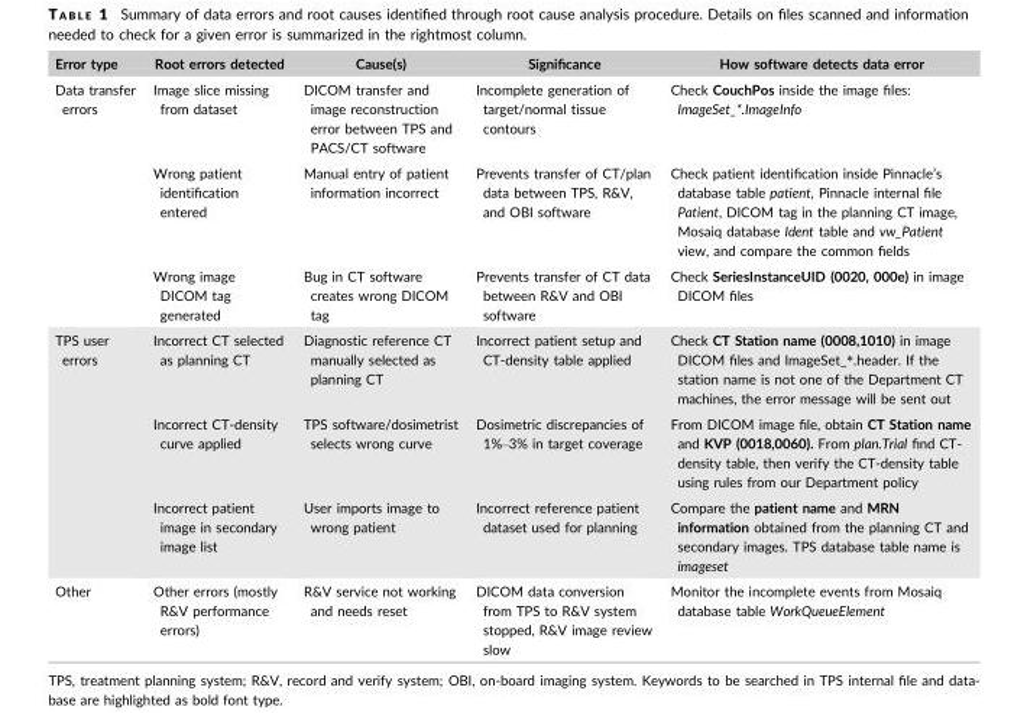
<table><thead><tr><td>Error type</td><td>Root errors detected</td><td>Cause(s)</td><td>Significance</td><td>How software detects data error</td></tr></thead><tbody><tr><td rowspan="3">Data transfer errors</td><td>Image slice missing from dataset</td><td>DICOM transfer and image reconstruction error between TPS and PACS/CT software</td><td>Incomplete generation of target/normal tissue contours</td><td>Check CouchPos inside the image files: ImageSet_*.ImageInfo</td></tr><tr><td>Wrong patient identification entered</td><td>Manual entry of patient information incorrect</td><td>Prevents transfer of CT/plan data between TPS, R&amp;V, and OBI software</td><td>Check patient identification inside Pinnacle’s database table patient, Pinnacle internal file Patient, DICOM tag in the planning CT image, Mosaiq database Ident table and vw_Patient view, and compare the common fields</td></tr><tr><td>Wrong image DICOM tag generated</td><td>Bug in CT software creates wrong DICOM tag</td><td>Prevents transfer of CT data between R&amp;V and OBI software</td><td>Check SeriesInstanceUID (0020, 000e) in image DICOM files</td></tr><tr><td rowspan="3">TPS user errors</td><td>Incorrect CT selected as planning CT</td><td>Diagnostic reference CT manually selected as planning CT</td><td>Incorrect patient setup and CT-density table applied</td><td>Check CT Station name (0008,1010) in image DICOM files and ImageSet_*.header. If the station name is not one of the Department CT machines, the error message will be sent out</td></tr><tr><td>Incorrect CT-density curve applied</td><td>TPS software/dosimetrist selects wrong curve</td><td>Dosimetric discrepancies of 1%–3% in target coverage</td><td>From DICOM image file, obtain CT Station name and KVP (0018,0060). From plan.Trial find CT- density table, then verify the CT-density table using rules from our Department policy</td></tr><tr><td>Incorrect patient image in secondary image list</td><td>User imports image to wrong patient</td><td>Incorrect reference patient dataset used for planning</td><td>Compare the patient name and MRN information obtained from the planning CT and secondary images. TPS database table name is imageset</td></tr><tr><td>Other</td><td>Other errors (mostly R&amp;V performance errors)</td><td>R&amp;V service not working and needs reset</td><td>DICOM data conversion from TPS to R&amp;V system stopped, R&amp;V image review slow</td><td>Monitor the incomplete events from Mosaiq database table WorkQueueElement</td></tr></tbody></table>